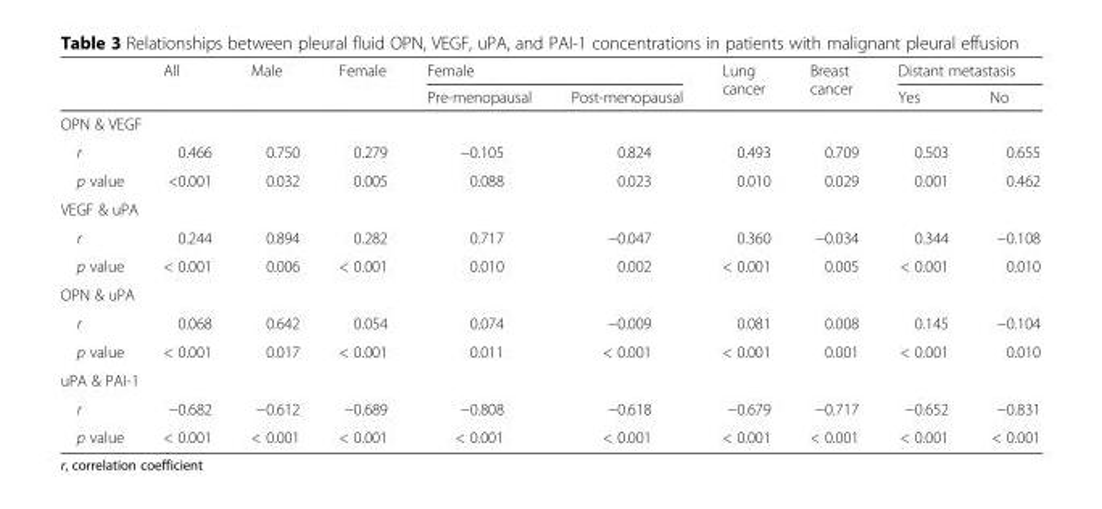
<table><thead><tr><td rowspan="2"></td><td rowspan="2">All</td><td rowspan="2">Male</td><td rowspan="2">Female</td><td colspan="2">Female</td><td rowspan="2">Lung cancer</td><td rowspan="2">Breast cancer</td><td colspan="2">Distant metastasis</td></tr><tr><td>Pre-menopausal</td><td>Post-menopausal</td><td>Yes</td><td>No</td></tr></thead><tbody><tr><td colspan="10">OPN &amp; VEGF</td></tr><tr><td>r</td><td>0.466</td><td>0.750</td><td>0.279</td><td>−0.105</td><td>0.824</td><td>0.493</td><td>0.709</td><td>0.503</td><td>0.655</td></tr><tr><td>p value</td><td>&lt;0.001</td><td>0.032</td><td>0.005</td><td>0.088</td><td>0.023</td><td>0.010</td><td>0.029</td><td>0.001</td><td>0.462</td></tr><tr><td colspan="10">VEGF &amp; uPA</td></tr><tr><td>r</td><td>0.244</td><td>0.894</td><td>0.282</td><td>0.717</td><td>−0.047</td><td>0.360</td><td>−0.034</td><td>0.344</td><td>−0.108</td></tr><tr><td>p value</td><td>&lt; 0.001</td><td>0.006</td><td>&lt; 0.001</td><td>0.010</td><td>0.002</td><td>&lt; 0.001</td><td>0.005</td><td>&lt; 0.001</td><td>0.010</td></tr><tr><td colspan="10">OPN &amp; uPA</td></tr><tr><td>r</td><td>0.068</td><td>0.642</td><td>0.054</td><td>0.074</td><td>−0.009</td><td>0.081</td><td>0.008</td><td>0.145</td><td>−0.104</td></tr><tr><td>p value</td><td>&lt; 0.001</td><td>0.017</td><td>&lt; 0.001</td><td>0.011</td><td>&lt; 0.001</td><td>&lt; 0.001</td><td>0.001</td><td>&lt; 0.001</td><td>0.010</td></tr><tr><td colspan="10">uPA &amp; PAI-1</td></tr><tr><td>r</td><td>−0.682</td><td>−0.612</td><td>−0.689</td><td>−0.808</td><td>−0.618</td><td>−0.679</td><td>−0.717</td><td>−0.652</td><td>−0.831</td></tr><tr><td>p value</td><td>&lt; 0.001</td><td>&lt; 0.001</td><td>&lt; 0.001</td><td>&lt; 0.001</td><td>&lt; 0.001</td><td>&lt; 0.001</td><td>&lt; 0.001</td><td>&lt; 0.001</td><td>&lt; 0.001</td></tr></tbody></table>